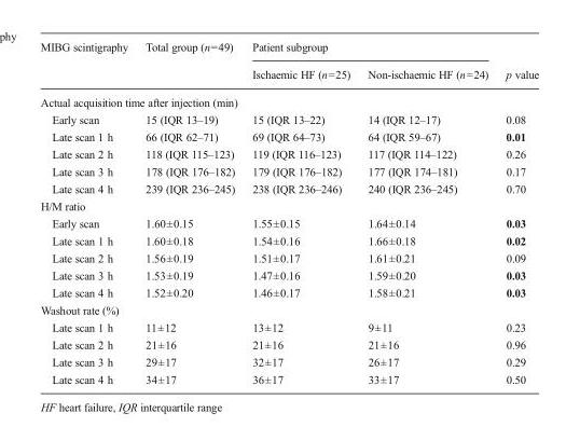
<table><thead><tr><td rowspan="2">MIBG scintigraphy</td><td rowspan="2">Total group (n=49)</td><td colspan="2">Patient subgroup</td><td rowspan="2">p value</td></tr><tr><td>Ischaemic HF (n=25)</td><td>Non-ischaemic HF (n=24)</td></tr></thead><tbody><tr><td colspan="5">Actual acquisition time after injection (min)</td></tr><tr><td>Early scan</td><td>15 (IQR 13–19)</td><td>15 (IQR 13–22)</td><td>14 (IQR 12–17)</td><td>0.08</td></tr><tr><td>Late scan 1 h</td><td>66 (IQR 62–71)</td><td>69 (IQR 64–73)</td><td>64 (IQR 59–67)</td><td>0.01</td></tr><tr><td>Late scan 2 h</td><td>118 (IQR 115–123)</td><td>119 (IQR 116–123)</td><td>117 (IQR 114–122)</td><td>0.26</td></tr><tr><td>Late scan 3 h</td><td>178 (IQR 176–182)</td><td>179 (IQR 176–182)</td><td>177 (IQR 174–181)</td><td>0.17</td></tr><tr><td>Late scan 4 h</td><td>239 (IQR 236–245)</td><td>238 (IQR 236–246)</td><td>240 (IQR 236–245)</td><td>0.70</td></tr><tr><td colspan="5">H/M ratio</td></tr><tr><td>Early scan</td><td>1.60±0.15</td><td>1.55±0.15</td><td>1.64±0.14</td><td>0.03</td></tr><tr><td>Late scan 1 h</td><td>1.60±0.18</td><td>1.54±0.16</td><td>1.66±0.18</td><td>0.02</td></tr><tr><td>Late scan 2 h</td><td>1.56±0.19</td><td>1.51±0.17</td><td>1.61±0.21</td><td>0.09</td></tr><tr><td>Late scan 3 h</td><td>1.53±0.19</td><td>1.47±0.16</td><td>1.59±0.20</td><td>0.03</td></tr><tr><td>Late scan 4 h</td><td>1.52±0.20</td><td>1.46±0.17</td><td>1.58±0.21</td><td>0.03</td></tr><tr><td colspan="5">Washout rate (%)</td></tr><tr><td>Late scan 1 h</td><td>11±12</td><td>13±12</td><td>9±11</td><td>0.23</td></tr><tr><td>Late scan 2 h</td><td>21±16</td><td>21±16</td><td>21±16</td><td>0.96</td></tr><tr><td>Late scan 3 h</td><td>29±17</td><td>32±17</td><td>26±17</td><td>0.29</td></tr><tr><td>Late scan 4 h</td><td>34±17</td><td>36±17</td><td>33±17</td><td>0.50</td></tr></tbody></table>